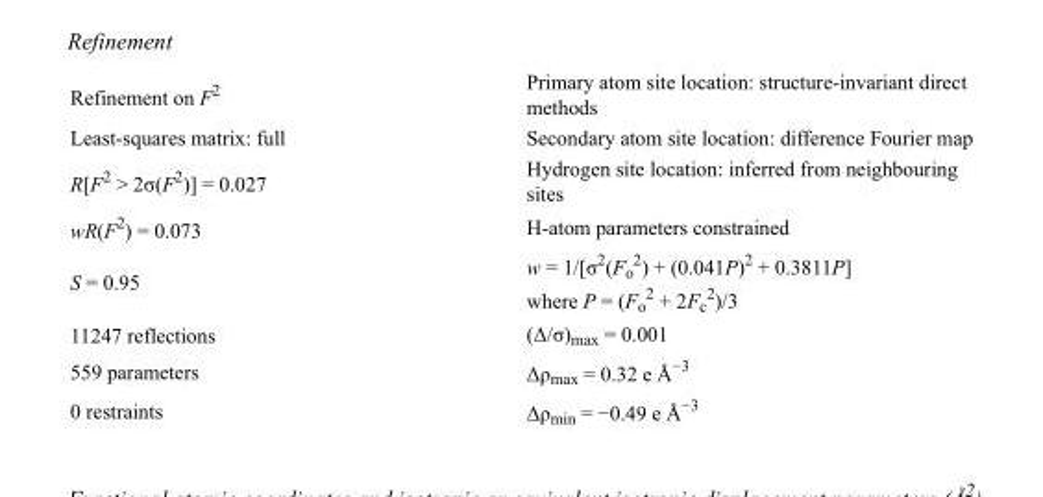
<table><tbody><tr><td>Refinement on F<sup>2</sup></td><td>Primary atom site location: structure-invariant direct methods</td></tr><tr><td>Least-squares matrix: full</td><td>Secondary atom site location: difference Fourier map</td></tr><tr><td>R[F<sup>2</sup> &gt; 2σ(F<sup>2</sup>)] = 0.027</td><td>Hydrogen site location: inferred from neighbouring sites</td></tr><tr><td>wR(F<sup>2</sup>) = 0.073</td><td>H-atom parameters constrained</td></tr><tr><td>S = 0.95</td><td>w = 1/[σ<sup>2</sup>(F<sub>o</sub> <sup>2</sup>) + (0.041P)<sup>2</sup> + 0.3811P] where P = (F<sub>o</sub> <sup>2</sup> + 2F<sub>c</sub> <sup>2</sup>)/3</td></tr><tr><td>11247 reflections</td><td>(Δ/σ)<sub>max</sub> = 0.001</td></tr><tr><td>559 parameters</td><td>Δρ<sub>max</sub> = 0.32 e Å<sup>−3</sup></td></tr><tr><td>0 restraints</td><td>Δρ<sub>min</sub> = −0.49 e Å<sup>−3</sup></td></tr></tbody></table>